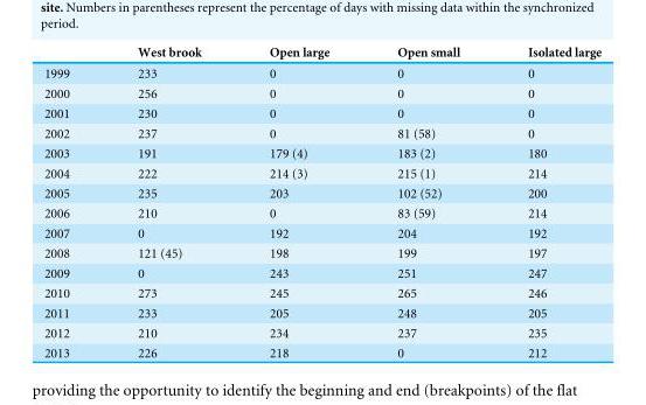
<table><thead><tr><td></td><td>West brook</td><td>Open large</td><td>Open small</td><td>Isolated large</td></tr></thead><tbody><tr><td>1999</td><td>233</td><td>0</td><td>0</td><td>0</td></tr><tr><td>2000</td><td>256</td><td>0</td><td>0</td><td>0</td></tr><tr><td>2001</td><td>230</td><td>0</td><td>0</td><td>0</td></tr><tr><td>2002</td><td>237</td><td>0</td><td>81 (58)</td><td>0</td></tr><tr><td>2003</td><td>191</td><td>179 (4)</td><td>183 (2)</td><td>180</td></tr><tr><td>2004</td><td>222</td><td>214 (3)</td><td>215 (1)</td><td>214</td></tr><tr><td>2005</td><td>235</td><td>203</td><td>102 (52)</td><td>200</td></tr><tr><td>2006</td><td>210</td><td>0</td><td>83 (59)</td><td>214</td></tr><tr><td>2007</td><td>0</td><td>192</td><td>204</td><td>192</td></tr><tr><td>2008</td><td>121 (45)</td><td>198</td><td>199</td><td>197</td></tr><tr><td>2009</td><td>0</td><td>243</td><td>251</td><td>247</td></tr><tr><td>2010</td><td>273</td><td>245</td><td>265</td><td>246</td></tr><tr><td>2011</td><td>233</td><td>205</td><td>248</td><td>205</td></tr><tr><td>2012</td><td>210</td><td>234</td><td>237</td><td>235</td></tr><tr><td>2013</td><td>226</td><td>218</td><td>0</td><td>212</td></tr></tbody></table>